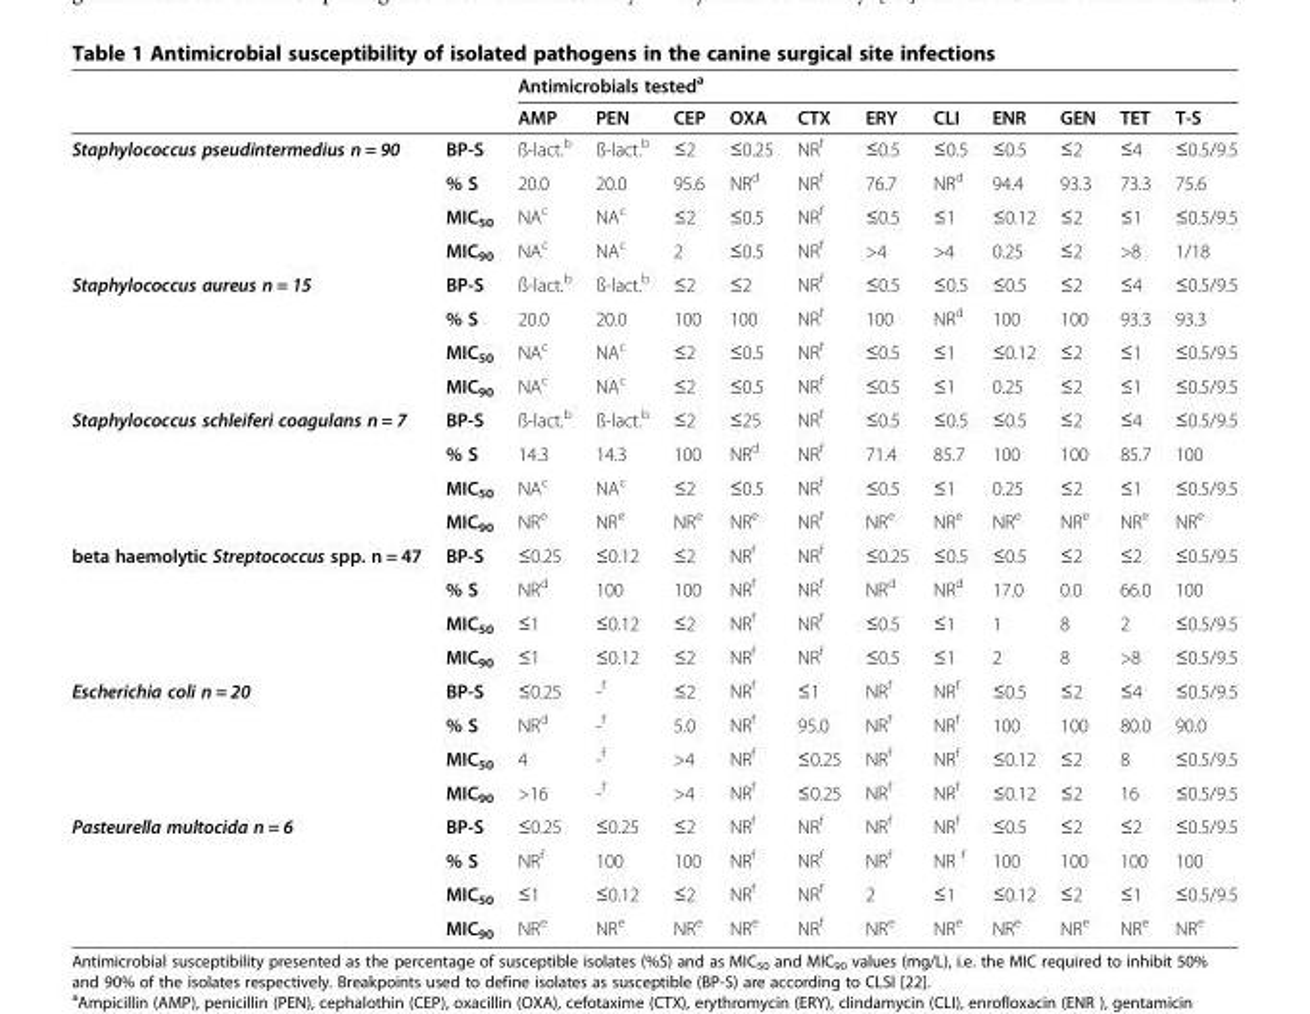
<table><thead><tr><td rowspan="2"></td><td rowspan="2"></td><td colspan="11">Antimicrobials tested<sup>a</sup></td></tr><tr><td>AMP</td><td>PEN</td><td>CEP</td><td>OXA</td><td>CTX</td><td>ERY</td><td>CLI</td><td>ENR</td><td>GEN</td><td>TET</td><td>T-S</td></tr></thead><tbody><tr><td rowspan="4">Staphylococcus pseudintermedius n = 90</td><td>BP-S</td><td>ß-lact.<sup>b</sup></td><td>ß-lact.<sup>b</sup></td><td>≤2</td><td>≤0.25</td><td>NR<sup>f</sup></td><td>≤0.5</td><td>≤0.5</td><td>≤0.5</td><td>≤2</td><td>≤4</td><td>≤0.5/9.5</td></tr><tr><td>% S</td><td>20.0</td><td>20.0</td><td>95.6</td><td>NR<sup>d</sup></td><td>NR<sup>f</sup></td><td>76.7</td><td>NR<sup>d</sup></td><td>94.4</td><td>93.3</td><td>73.3</td><td>75.6</td></tr><tr><td>MIC<sub>50</sub></td><td>NA<sup>c</sup></td><td>NA<sup>c</sup></td><td>≤2</td><td>≤0.5</td><td>NR<sup>f</sup></td><td>≤0.5</td><td>≤1</td><td>≤0.12</td><td>≤2</td><td>≤1</td><td>≤0.5/9.5</td></tr><tr><td>MIC<sub>90</sub></td><td>NA<sup>c</sup></td><td>NA<sup>c</sup></td><td>2</td><td>≤0.5</td><td>NR<sup>f</sup></td><td>&gt;4</td><td>&gt;4</td><td>0.25</td><td>≤2</td><td>&gt;8</td><td>1/18</td></tr><tr><td rowspan="4">Staphylococcus aureus n = 15</td><td>BP-S</td><td>ß-lact.<sup>b</sup></td><td>ß-lact.<sup>b</sup></td><td>≤2</td><td>≤2</td><td>NR<sup>f</sup></td><td>≤0.5</td><td>≤0.5</td><td>≤0.5</td><td>≤2</td><td>≤4</td><td>≤0.5/9.5</td></tr><tr><td>% S</td><td>20.0</td><td>20.0</td><td>100</td><td>100</td><td>NR<sup>f</sup></td><td>100</td><td>NR<sup>d</sup></td><td>100</td><td>100</td><td>93.3</td><td>93.3</td></tr><tr><td>MIC<sub>50</sub></td><td>NA<sup>c</sup></td><td>NA<sup>c</sup></td><td>≤2</td><td>≤0.5</td><td>NR<sup>f</sup></td><td>≤0.5</td><td>≤1</td><td>≤0.12</td><td>≤2</td><td>≤1</td><td>≤0.5/9.5</td></tr><tr><td>MIC<sub>90</sub></td><td>NA<sup>c</sup></td><td>NA<sup>c</sup></td><td>≤2</td><td>≤0.5</td><td>NR<sup>f</sup></td><td>≤0.5</td><td>≤1</td><td>0.25</td><td>≤2</td><td>≤1</td><td>≤0.5/9.5</td></tr><tr><td rowspan="4">Staphylococcus schleiferi coagulans n = 7</td><td>BP-S</td><td>ß-lact.<sup>b</sup></td><td>ß-lact.<sup>b</sup></td><td>≤2</td><td>≤25</td><td>NR<sup>f</sup></td><td>≤0.5</td><td>≤0.5</td><td>≤0.5</td><td>≤2</td><td>≤4</td><td>≤0.5/9.5</td></tr><tr><td>% S</td><td>14.3</td><td>14.3</td><td>100</td><td>NR<sup>d</sup></td><td>NR<sup>f</sup></td><td>71.4</td><td>85.7</td><td>100</td><td>100</td><td>85.7</td><td>100</td></tr><tr><td>MIC<sub>50</sub></td><td>NA<sup>c</sup></td><td>NA<sup>c</sup></td><td>≤2</td><td>≤0.5</td><td>NR<sup>f</sup></td><td>≤0.5</td><td>≤1</td><td>0.25</td><td>≤2</td><td>≤1</td><td>≤0.5/9.5</td></tr><tr><td>MIC<sub>90</sub></td><td>NR<sup>e</sup></td><td>NR<sup>e</sup></td><td>NR<sup>e</sup></td><td>NR<sup>e</sup></td><td>NR<sup>f</sup></td><td>NR<sup>e</sup></td><td>NR<sup>e</sup></td><td>NR<sup>e</sup></td><td>NR<sup>e</sup></td><td>NR<sup>e</sup></td><td>NR<sup>e</sup></td></tr><tr><td rowspan="4">beta haemolytic Streptococcus spp. n = 47</td><td>BP-S</td><td>≤0.25</td><td>≤0.12</td><td>≤2</td><td>NR<sup>f</sup></td><td>NR<sup>f</sup></td><td>≤0.25</td><td>≤0.5</td><td>≤0.5</td><td>≤2</td><td>≤2</td><td>≤0.5/9.5</td></tr><tr><td>% S</td><td>NR<sup>d</sup></td><td>100</td><td>100</td><td>NR<sup>f</sup></td><td>NR<sup>f</sup></td><td>NR<sup>d</sup></td><td>NR<sup>d</sup></td><td>17.0</td><td>0.0</td><td>66.0</td><td>100</td></tr><tr><td>MIC<sub>50</sub></td><td>≤1</td><td>≤0.12</td><td>≤2</td><td>NR<sup>f</sup></td><td>NR<sup>f</sup></td><td>≤0.5</td><td>≤1</td><td>1</td><td>8</td><td>2</td><td>≤0.5/9.5</td></tr><tr><td>MIC<sub>90</sub></td><td>≤1</td><td>≤0.12</td><td>≤2</td><td>NR<sup>f</sup></td><td>NR<sup>f</sup></td><td>≤0.5</td><td>≤1</td><td>2</td><td>8</td><td>&gt;8</td><td>≤0.5/9.5</td></tr><tr><td rowspan="4">Escherichia coli n = 20</td><td>BP-S</td><td>≤0.25</td><td>-<sup>f</sup></td><td>≤2</td><td>NR<sup>f</sup></td><td>≤1</td><td>NR<sup>f</sup></td><td>NR<sup>f</sup></td><td>≤0.5</td><td>≤2</td><td>≤4</td><td>≤0.5/9.5</td></tr><tr><td>% S</td><td>NR<sup>d</sup></td><td>-<sup>f</sup></td><td>5.0</td><td>NR<sup>f</sup></td><td>95.0</td><td>NR<sup>f</sup></td><td>NR<sup>f</sup></td><td>100</td><td>100</td><td>80.0</td><td>90.0</td></tr><tr><td>MIC<sub>50</sub></td><td>4</td><td>-<sup>f</sup></td><td>&gt;4</td><td>NR<sup>f</sup></td><td>≤0.25</td><td>NR<sup>f</sup></td><td>NR<sup>f</sup></td><td>≤0.12</td><td>≤2</td><td>8</td><td>≤0.5/9.5</td></tr><tr><td>MIC<sub>90</sub></td><td>&gt;16</td><td>-<sup>f</sup></td><td>&gt;4</td><td>NR<sup>f</sup></td><td>≤0.25</td><td>NR<sup>f</sup></td><td>NR<sup>f</sup></td><td>≤0.12</td><td>≤2</td><td>16</td><td>≤0.5/9.5</td></tr><tr><td rowspan="4">Pasteurella multocida n = 6</td><td>BP-S</td><td>≤0.25</td><td>≤0.25</td><td>≤2</td><td>NR<sup>f</sup></td><td>NR<sup>f</sup></td><td>NR<sup>f</sup></td><td>NR<sup>f</sup></td><td>≤0.5</td><td>≤2</td><td>≤2</td><td>≤0.5/9.5</td></tr><tr><td>% S</td><td>NR<sup>f</sup></td><td>100</td><td>100</td><td>NR<sup>f</sup></td><td>NR<sup>f</sup></td><td>NR<sup>f</sup></td><td>NR <sup>f</sup></td><td>100</td><td>100</td><td>100</td><td>100</td></tr><tr><td>MIC<sub>50</sub></td><td>≤1</td><td>≤0.12</td><td>≤2</td><td>NR<sup>f</sup></td><td>NR<sup>f</sup></td><td>2</td><td>≤1</td><td>≤0.12</td><td>≤2</td><td>≤1</td><td>≤0.5/9.5</td></tr><tr><td>MIC<sub>90</sub></td><td>NR<sup>e</sup></td><td>NR<sup>e</sup></td><td>NR<sup>e</sup></td><td>NR<sup>e</sup></td><td>NR<sup>f</sup></td><td>NR<sup>e</sup></td><td>NR<sup>e</sup></td><td>NR<sup>e</sup></td><td>NR<sup>e</sup></td><td>NR<sup>e</sup></td><td>NR<sup>e</sup></td></tr></tbody></table>